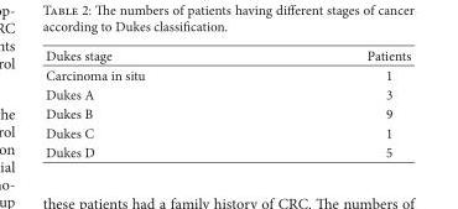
<table><thead><tr><td>Dukes stage</td><td>Patients</td></tr></thead><tbody><tr><td>Carcinoma in situ</td><td>1</td></tr><tr><td>Dukes A</td><td>3</td></tr><tr><td>Dukes B</td><td>9</td></tr><tr><td>Dukes C</td><td>1</td></tr><tr><td>Dukes D</td><td>5</td></tr></tbody></table>